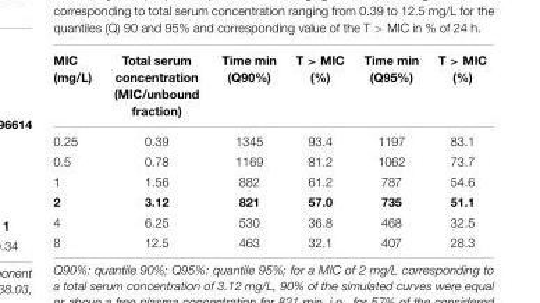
<table><thead><tr><td>MIC (mg/L)</td><td>Total serum concentration (MIC/unbound fraction)</td><td>Time min (Q90%)</td><td>T &gt; MIC (%)</td><td>Time min (Q95%)</td><td>T &gt; MIC (%)</td></tr></thead><tbody><tr><td>0.25</td><td>0.39</td><td>1345</td><td>93.4</td><td>1197</td><td>83.1</td></tr><tr><td>0.5</td><td>0.78</td><td>1169</td><td>81.2</td><td>1062</td><td>73.7</td></tr><tr><td>1</td><td>1.56</td><td>882</td><td>61.2</td><td>787</td><td>54.6</td></tr><tr><td>2</td><td>3.12</td><td>821</td><td>57.0</td><td>735</td><td>51.1</td></tr><tr><td>4</td><td>6.25</td><td>530</td><td>36.8</td><td>468</td><td>32.5</td></tr><tr><td>8</td><td>12.5</td><td>463</td><td>32.1</td><td>407</td><td>28.3</td></tr></tbody></table>